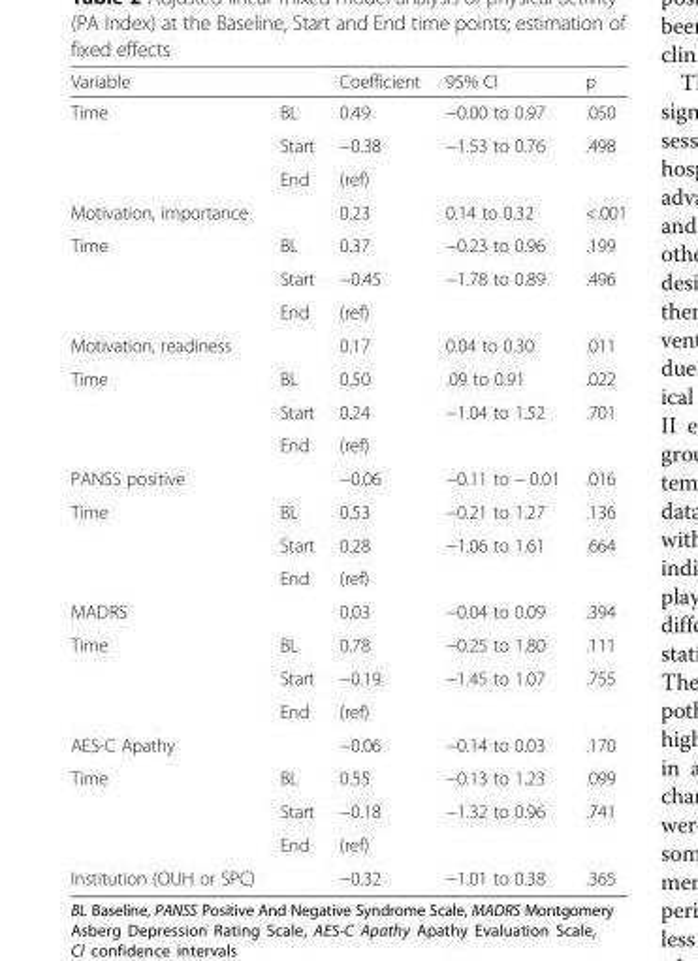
<table><thead><tr><td>Variable</td><td></td><td>Coefficient</td><td>95% CI</td><td>p</td></tr></thead><tbody><tr><td rowspan="3">Time</td><td>BL</td><td>0.49</td><td>−0.00 to 0.97</td><td>.050</td></tr><tr><td>Start</td><td>−0.38</td><td>−1.53 to 0.76</td><td>.498</td></tr><tr><td>End</td><td>(ref)</td><td></td><td></td></tr><tr><td>Motivation, importance</td><td></td><td>0.23</td><td>0.14 to 0.32</td><td>&lt;.001</td></tr><tr><td rowspan="3">Time</td><td>BL</td><td>0.37</td><td>−0.23 to 0.96</td><td>.199</td></tr><tr><td>Start</td><td>−0.45</td><td>−1.78 to 0.89</td><td>.496</td></tr><tr><td>End</td><td>(ref)</td><td></td><td></td></tr><tr><td>Motivation, readiness</td><td></td><td>0.17</td><td>0.04 to 0.30</td><td>.011</td></tr><tr><td rowspan="3">Time</td><td>BL</td><td>0.50</td><td>.09 to 0.91</td><td>.022</td></tr><tr><td>Start</td><td>0.24</td><td>−1.04 to 1.52</td><td>.701</td></tr><tr><td>End</td><td>(ref)</td><td></td><td></td></tr><tr><td colspan="2">PANSS positive</td><td>−0.06</td><td>−0.11 to − 0.01</td><td>.016</td></tr><tr><td rowspan="3">Time</td><td>BL</td><td>0.53</td><td>−0.21 to 1.27</td><td>.136</td></tr><tr><td>Start</td><td>0.28</td><td>−1.06 to 1.61</td><td>.664</td></tr><tr><td>End</td><td>(ref)</td><td></td><td></td></tr><tr><td>MADRS</td><td></td><td>0.03</td><td>−0.04 to 0.09</td><td>.394</td></tr><tr><td rowspan="3">Time</td><td>BL</td><td>0.78</td><td>−0.25 to 1.80</td><td>.111</td></tr><tr><td>Start</td><td>−0.19</td><td>−1.45 to 1.07</td><td>.755</td></tr><tr><td>End</td><td>(ref)</td><td></td><td></td></tr><tr><td>AES-C Apathy</td><td></td><td>−0.06</td><td>−0.14 to 0.03</td><td>.170</td></tr><tr><td rowspan="3">Time</td><td>BL</td><td>0.55</td><td>−0.13 to 1.23</td><td>.099</td></tr><tr><td>Start</td><td>−0.18</td><td>−1.32 to 0.96</td><td>.741</td></tr><tr><td>End</td><td>(ref)</td><td></td><td></td></tr><tr><td>Institution (OUH or SPC)</td><td></td><td>−0.32</td><td>−1.01 to 0.38</td><td>.365</td></tr></tbody></table>